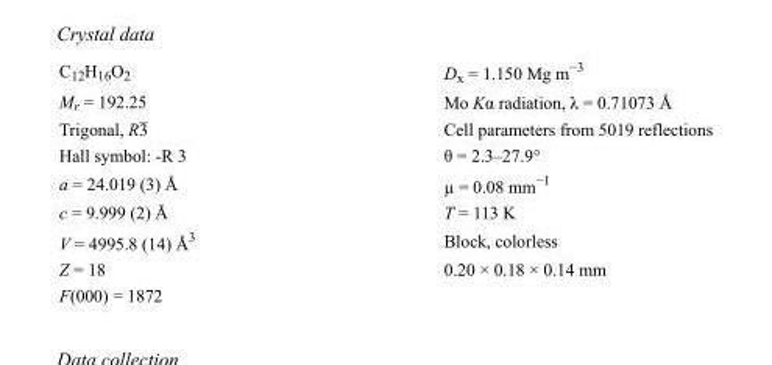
<table><tbody><tr><td>C<sub>12</sub>H<sub>16</sub>O<sub>2</sub></td><td>D<sub>x</sub> = 1.150 Mg m<sup>−3</sup></td></tr><tr><td>M<sub>r</sub> = 192.25</td><td>Mo Kα radiation, λ = 0.71073 Å</td></tr><tr><td>Trigonal, R3</td><td>Cell parameters from 5019 reflections</td></tr><tr><td>Hall symbol: -R 3</td><td>θ = 2.3–27.9°</td></tr><tr><td>a = 24.019 (3) Å</td><td>µ = 0.08 mm<sup>−1</sup></td></tr><tr><td>c = 9.999 (2) Å</td><td>T = 113 K</td></tr><tr><td>V = 4995.8 (14) Å<sup>3</sup></td><td>Block, colorless</td></tr><tr><td>Z = 18</td><td>0.20 × 0.18 × 0.14 mm</td></tr><tr><td>F(000) = 1872</td><td></td></tr></tbody></table>